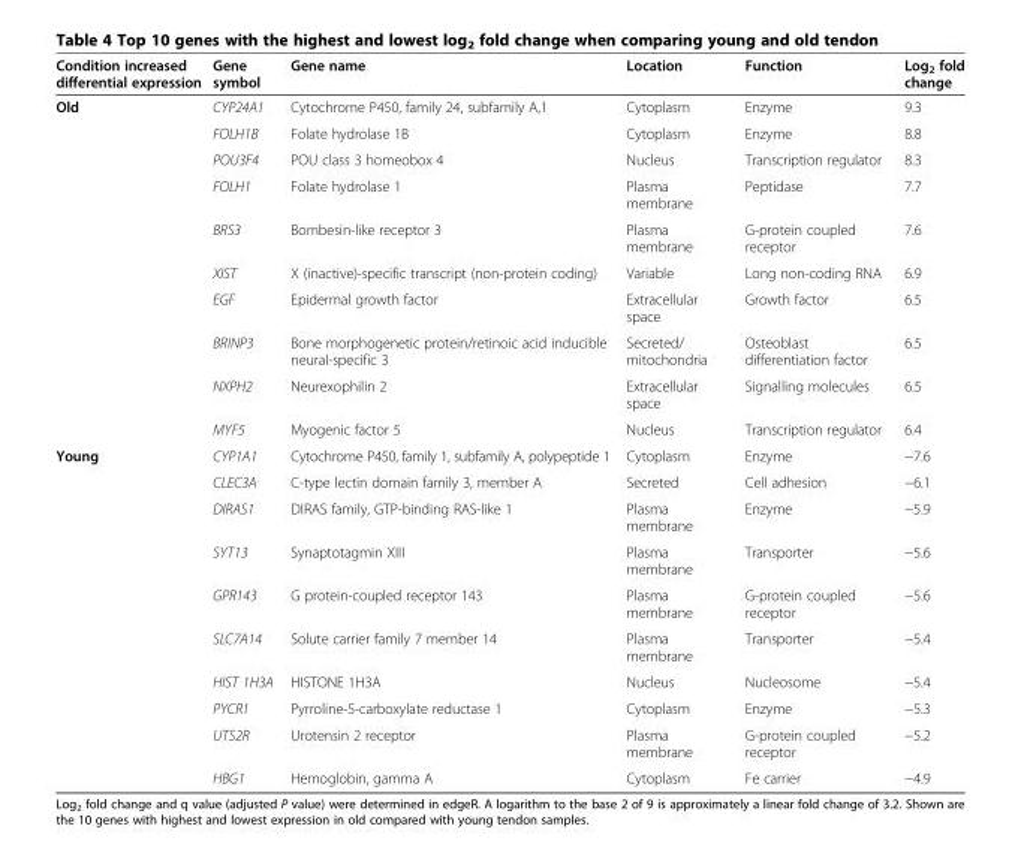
<table><thead><tr><td>Condition increased differential expression</td><td>Gene symbol</td><td>Gene name</td><td>Location</td><td>Function</td><td>Log<sub>2</sub> fold change</td></tr></thead><tbody><tr><td rowspan="10">Old</td><td>CYP24A1</td><td>Cytochrome P450, family 24, subfamily A,1</td><td>Cytoplasm</td><td>Enzyme</td><td>9.3</td></tr><tr><td>FOLH1B</td><td>Folate hydrolase 1B</td><td>Cytoplasm</td><td>Enzyme</td><td>8.8</td></tr><tr><td>POU3F4</td><td>POU class 3 homeobox 4</td><td>Nucleus</td><td>Transcription regulator</td><td>8.3</td></tr><tr><td>FOLH1</td><td>Folate hydrolase 1</td><td>Plasma membrane</td><td>Peptidase</td><td>7.7</td></tr><tr><td>BRS3</td><td>Bombesin-like receptor 3</td><td>Plasma membrane</td><td>G-protein coupled receptor</td><td>7.6</td></tr><tr><td>XIST</td><td>X (inactive)-specific transcript (non-protein coding)</td><td>Variable</td><td>Long non-coding RNA</td><td>6.9</td></tr><tr><td>EGF</td><td>Epidermal growth factor</td><td>Extracellular space</td><td>Growth factor</td><td>6.5</td></tr><tr><td>BRINP3</td><td>Bone morphogenetic protein/retinoic acid inducible neural-specific 3</td><td>Secreted/ mitochondria</td><td>Osteoblast differentiation factor</td><td>6.5</td></tr><tr><td>NXPH2</td><td>Neurexophilin 2</td><td>Extracellular space</td><td>Signalling molecules</td><td>6.5</td></tr><tr><td>MYF5</td><td>Myogenic factor 5</td><td>Nucleus</td><td>Transcription regulator</td><td>6.4</td></tr><tr><td rowspan="10">Young</td><td>CYP1A1</td><td>Cytochrome P450, family 1, subfamily A, polypeptide 1</td><td>Cytoplasm</td><td>Enzyme</td><td>−7.6</td></tr><tr><td>CLEC3A</td><td>C-type lectin domain family 3, member A</td><td>Secreted</td><td>Cell adhesion</td><td>−6.1</td></tr><tr><td>DIRAS1</td><td>DIRAS family, GTP-binding RAS-like 1</td><td>Plasma membrane</td><td>Enzyme</td><td>−5.9</td></tr><tr><td>SYT13</td><td>Synaptotagmin XIII</td><td>Plasma membrane</td><td>Transporter</td><td>−5.6</td></tr><tr><td>GPR143</td><td>G protein-coupled receptor 143</td><td>Plasma membrane</td><td>G-protein coupled receptor</td><td>−5.6</td></tr><tr><td>SLC7A14</td><td>Solute carrier family 7 member 14</td><td>Plasma membrane</td><td>Transporter</td><td>−5.4</td></tr><tr><td>HIST 1H3A</td><td>HISTONE 1H3A</td><td>Nucleus</td><td>Nucleosome</td><td>−5.4</td></tr><tr><td>PYCR1</td><td>Pyrroline-5-carboxylate reductase 1</td><td>Cytoplasm</td><td>Enzyme</td><td>−5.3</td></tr><tr><td>UTS2R</td><td>Urotensin 2 receptor</td><td>Plasma membrane</td><td>G-protein coupled receptor</td><td>−5.2</td></tr><tr><td>HBG1</td><td>Hemoglobin, gamma A</td><td>Cytoplasm</td><td>Fe carrier</td><td>−4.9</td></tr></tbody></table>